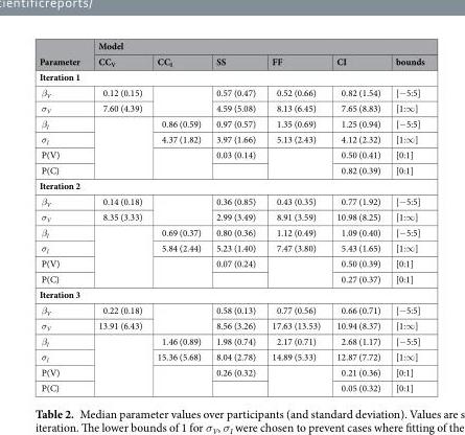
<table><thead><tr><td rowspan="2">Parameter</td><td colspan="6">Model</td></tr><tr><td>CC<sub>V</sub></td><td>CC<sub>I</sub></td><td>SS</td><td>FF</td><td>CI</td><td>bounds</td></tr></thead><tbody><tr><td colspan="7">Iteration 1</td></tr><tr><td>β<sub>V</sub></td><td>0.12 (0.15)</td><td rowspan="2"></td><td>0.57 (0.47)</td><td>0.52 (0.66)</td><td>0.82 (1.54)</td><td>[−5:5]</td></tr><tr><td>σ<sub>V</sub></td><td>7.60 (4.39)</td><td>4.59 (5.08)</td><td>8.13 (6.45)</td><td>7.65 (8.83)</td><td>[1:∞]</td></tr><tr><td>β<sub>I</sub></td><td rowspan="4"></td><td>0.86 (0.59)</td><td>0.97 (0.57)</td><td>1.35 (0.69)</td><td>1.25 (0.94)</td><td>[−5:5]</td></tr><tr><td>σ<sub>I</sub></td><td>4.37 (1.82)</td><td>3.97 (1.66)</td><td>5.13 (2.43)</td><td>4.12 (2.32)</td><td>[1:∞]</td></tr><tr><td>P(V)</td><td rowspan="2"></td><td>0.03 (0.14)</td><td rowspan="2"></td><td>0.50 (0.41)</td><td>[0:1]</td></tr><tr><td>P(C)</td><td></td><td>0.82 (0.39)</td><td>[0:1]</td></tr><tr><td colspan="7">Iteration 2</td></tr><tr><td>β<sub>V</sub></td><td>0.14 (0.18)</td><td rowspan="2"></td><td>0.36 (0.85)</td><td>0.43 (0.35)</td><td>0.77 (1.92)</td><td>[−5:5]</td></tr><tr><td>σ<sub>V</sub></td><td>8.35 (3.33)</td><td>2.99 (3.49)</td><td>8.91 (3.59)</td><td>10.98 (8.25)</td><td>[1:∞]</td></tr><tr><td>β<sub>I</sub></td><td rowspan="4"></td><td>0.69 (0.37)</td><td>0.80 (0.36)</td><td>1.12 (0.49)</td><td>1.09 (0.40)</td><td>[−5:5]</td></tr><tr><td>σ<sub>I</sub></td><td>5.84 (2.44)</td><td>5.23 (1.40)</td><td>7.47 (3.80)</td><td>5.43 (1.65)</td><td>[1:∞]</td></tr><tr><td>P(V)</td><td rowspan="2"></td><td>0.07 (0.24)</td><td rowspan="2"></td><td>0.50 (0.39)</td><td>[0:1]</td></tr><tr><td>P(C)</td><td></td><td>0.27 (0.37)</td><td>[0:1]</td></tr><tr><td colspan="7">Iteration 3</td></tr><tr><td>β<sub>V</sub></td><td>0.22 (0.18)</td><td rowspan="2"></td><td>0.58 (0.13)</td><td>0.77 (0.56)</td><td>0.66 (0.71)</td><td>[−5:5]</td></tr><tr><td>σ<sub>V</sub></td><td>13.91 (6.43)</td><td>8.56 (3.26)</td><td>17.63 (13.53)</td><td>10.94 (8.37)</td><td>[1:∞]</td></tr><tr><td>β<sub>I</sub></td><td rowspan="4"></td><td>1.46 (0.89)</td><td>1.98 (0.74)</td><td>2.17 (0.71)</td><td>2.68 (1.17)</td><td>[−5:5]</td></tr><tr><td>σ<sub>I</sub></td><td>15.36 (5.68)</td><td>8.04 (2.78)</td><td>14.89 (5.33)</td><td>12.87 (7.72)</td><td>[1:∞]</td></tr><tr><td>P(V)</td><td rowspan="2"></td><td>0.26 (0.32)</td><td rowspan="2"></td><td>0.21 (0.36)</td><td>[0:1]</td></tr><tr><td>P(C)</td><td></td><td>0.05 (0.32)</td><td>[0:1]</td></tr></tbody></table>